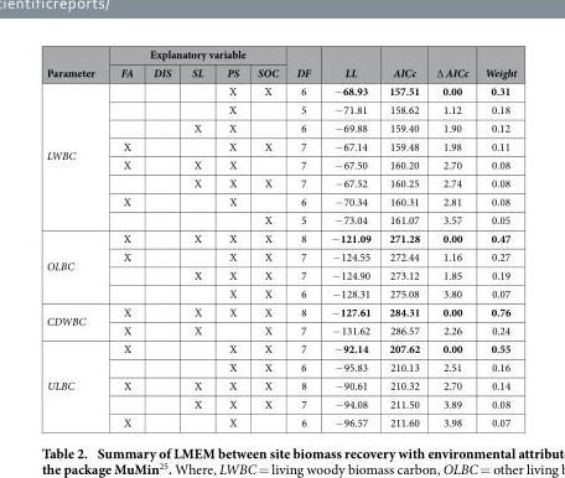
<table><thead><tr><td rowspan="2">Parameter</td><td colspan="5">Explanatory variable</td><td rowspan="2">DF</td><td rowspan="2">LL</td><td rowspan="2">AICc</td><td rowspan="2">∆ AICc</td><td rowspan="2">Weight</td></tr><tr><td>FA</td><td>DIS</td><td>SL</td><td>PS</td><td>SOC</td></tr></thead><tbody><tr><td rowspan="8">LWBC</td><td></td><td></td><td></td><td>X</td><td>X</td><td>6</td><td>− 68.93</td><td>157.51</td><td>0.00</td><td>0.31</td></tr><tr><td></td><td></td><td></td><td>X</td><td></td><td>5</td><td>− 71.81</td><td>158.62</td><td>1.12</td><td>0.18</td></tr><tr><td></td><td></td><td>X</td><td>X</td><td></td><td>6</td><td>− 69.88</td><td>159.40</td><td>1.90</td><td>0.12</td></tr><tr><td>X</td><td></td><td></td><td>X</td><td>X</td><td>7</td><td>− 67.14</td><td>159.48</td><td>1.98</td><td>0.11</td></tr><tr><td>X</td><td></td><td>X</td><td>X</td><td></td><td>7</td><td>− 67.50</td><td>160.20</td><td>2.70</td><td>0.08</td></tr><tr><td></td><td></td><td>X</td><td>X</td><td>X</td><td>7</td><td>− 67.52</td><td>160.25</td><td>2.74</td><td>0.08</td></tr><tr><td>X</td><td></td><td></td><td>X</td><td></td><td>6</td><td>− 70.34</td><td>160.31</td><td>2.81</td><td>0.08</td></tr><tr><td></td><td></td><td></td><td></td><td>X</td><td>5</td><td>− 73.04</td><td>161.07</td><td>3.57</td><td>0.05</td></tr><tr><td rowspan="4">OLBC</td><td>X</td><td></td><td>X</td><td>X</td><td>X</td><td>8</td><td>− 121.09</td><td>271.28</td><td>0.00</td><td>0.47</td></tr><tr><td>X</td><td></td><td></td><td>X</td><td>X</td><td>7</td><td>− 124.55</td><td>272.44</td><td>1.16</td><td>0.27</td></tr><tr><td></td><td></td><td>X</td><td>X</td><td>X</td><td>7</td><td>− 124.90</td><td>273.12</td><td>1.85</td><td>0.19</td></tr><tr><td></td><td></td><td></td><td>X</td><td>X</td><td>6</td><td>− 128.31</td><td>275.08</td><td>3.80</td><td>0.07</td></tr><tr><td rowspan="2">CDWBC</td><td>X</td><td></td><td>X</td><td>X</td><td>X</td><td>8</td><td>− 127.61</td><td>284.31</td><td>0.00</td><td>0.76</td></tr><tr><td>X</td><td></td><td>X</td><td></td><td>X</td><td>7</td><td>− 131.62</td><td>286.57</td><td>2.26</td><td>0.24</td></tr><tr><td rowspan="5">ULBC</td><td>X</td><td></td><td></td><td>X</td><td>X</td><td>7</td><td>− 92.14</td><td>207.62</td><td>0.00</td><td>0.55</td></tr><tr><td></td><td></td><td></td><td>X</td><td>X</td><td>6</td><td>− 95.83</td><td>210.13</td><td>2.51</td><td>0.16</td></tr><tr><td>X</td><td></td><td>X</td><td>X</td><td>X</td><td>8</td><td>− 90.61</td><td>210.32</td><td>2.70</td><td>0.14</td></tr><tr><td></td><td></td><td>X</td><td>X</td><td>X</td><td>7</td><td>− 94.08</td><td>211.50</td><td>3.89</td><td>0.08</td></tr><tr><td>X</td><td></td><td></td><td>X</td><td></td><td>6</td><td>− 96.57</td><td>211.60</td><td>3.98</td><td>0.07</td></tr></tbody></table>